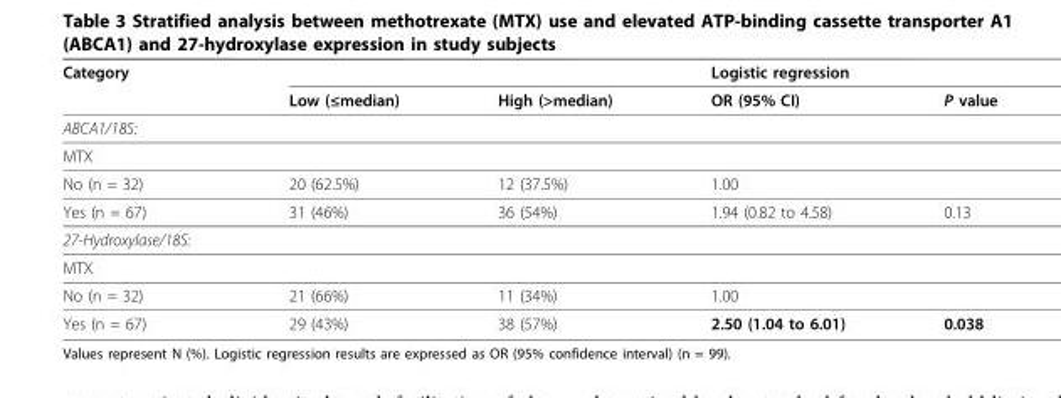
<table><thead><tr><td rowspan="2">Category</td><td rowspan="2">Low (≤median)</td><td rowspan="2">High (&gt;median)</td><td colspan="2">Logistic regression</td></tr><tr><td>OR (95% CI)</td><td>P value</td></tr></thead><tbody><tr><td colspan="5">ABCA1/18S:</td></tr><tr><td colspan="5">MTX</td></tr><tr><td>No (n = 32)</td><td>20 (62.5%)</td><td>12 (37.5%)</td><td>1.00</td><td></td></tr><tr><td>Yes (n = 67)</td><td>31 (46%)</td><td>36 (54%)</td><td>1.94 (0.82 to 4.58)</td><td>0.13</td></tr><tr><td colspan="5">27-Hydroxylase/18S:</td></tr><tr><td colspan="5">MTX</td></tr><tr><td>No (n = 32)</td><td>21 (66%)</td><td>11 (34%)</td><td>1.00</td><td></td></tr><tr><td>Yes (n = 67)</td><td>29 (43%)</td><td>38 (57%)</td><td>2.50 (1.04 to 6.01)</td><td>0.038</td></tr></tbody></table>